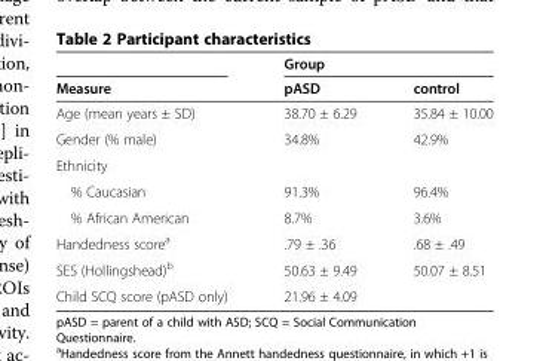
<table><thead><tr><td rowspan="2">Measure</td><td colspan="2">Group</td></tr><tr><td>pASD</td><td>control</td></tr></thead><tbody><tr><td>Age (mean years ± SD)</td><td>38.70 ± 6.29</td><td>35.84 ± 10.00</td></tr><tr><td>Gender (% male)</td><td>34.8%</td><td>42.9%</td></tr><tr><td colspan="3">Ethnicity</td></tr><tr><td>% Caucasian</td><td>91.3%</td><td>96.4%</td></tr><tr><td>% African American</td><td>8.7%</td><td>3.6%</td></tr><tr><td>Handedness score<sup>a</sup></td><td>.79 ± .36</td><td>.68 ± .49</td></tr><tr><td>SES (Hollingshead)<sup>b</sup></td><td>50.63 ± 9.49</td><td>50.07 ± 8.51</td></tr><tr><td>Child SCQ score (pASD only)</td><td>21.96 ± 4.09</td><td></td></tr></tbody></table>